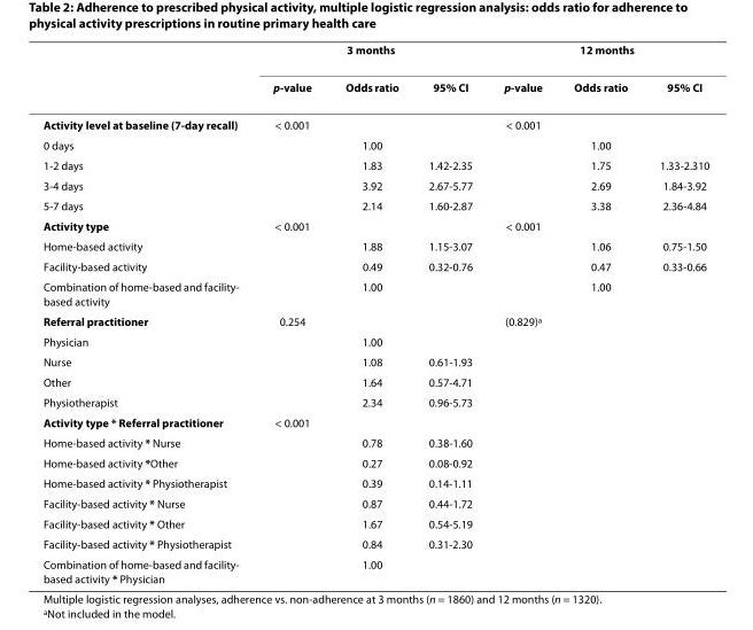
<table><thead><tr><td rowspan="2"></td><td colspan="3">3 months</td><td colspan="3">12 months</td></tr><tr><td>p-value</td><td>Odds ratio</td><td>95% CI</td><td>p-value</td><td>Odds ratio</td><td>95% CI</td></tr></thead><tbody><tr><td>Activity level at baseline (7-day recall)</td><td>&lt; 0.001</td><td></td><td></td><td>&lt; 0.001</td><td></td><td></td></tr><tr><td>0 days</td><td></td><td>1.00</td><td></td><td></td><td>1.00</td><td></td></tr><tr><td>1-2 days</td><td></td><td>1.83</td><td>1.42-2.35</td><td></td><td>1.75</td><td>1.33-2.310</td></tr><tr><td>3-4 days</td><td></td><td>3.92</td><td>2.67-5.77</td><td></td><td>2.69</td><td>1.84-3.92</td></tr><tr><td>5-7 days</td><td></td><td>2.14</td><td>1.60-2.87</td><td></td><td>3.38</td><td>2.36-4.84</td></tr><tr><td>Activity type</td><td>&lt; 0.001</td><td></td><td></td><td>&lt; 0.001</td><td></td><td></td></tr><tr><td>Home-based activity</td><td></td><td>1.88</td><td>1.15-3.07</td><td></td><td>1.06</td><td>0.75-1.50</td></tr><tr><td>Facility-based activity</td><td></td><td>0.49</td><td>0.32-0.76</td><td></td><td>0.47</td><td>0.33-0.66</td></tr><tr><td>Combination of home-based and facility- based activity</td><td></td><td>1.00</td><td></td><td></td><td>1.00</td><td></td></tr><tr><td>Referral practitioner</td><td>0.254</td><td></td><td></td><td>(0.829)<sup>a</sup></td><td></td><td></td></tr><tr><td>Physician</td><td></td><td>1.00</td><td></td><td></td><td></td><td></td></tr><tr><td>Nurse</td><td></td><td>1.08</td><td>0.61-1.93</td><td></td><td></td><td></td></tr><tr><td>Other</td><td></td><td>1.64</td><td>0.57-4.71</td><td></td><td></td><td></td></tr><tr><td>Physiotherapist</td><td></td><td>2.34</td><td>0.96-5.73</td><td></td><td></td><td></td></tr><tr><td>Activity type * Referral practitioner</td><td>&lt; 0.001</td><td></td><td></td><td></td><td></td><td></td></tr><tr><td>Home-based activity * Nurse</td><td></td><td>0.78</td><td>0.38-1.60</td><td></td><td></td><td></td></tr><tr><td>Home-based activity *Other</td><td></td><td>0.27</td><td>0.08-0.92</td><td></td><td></td><td></td></tr><tr><td>Home-based activity * Physiotherapist</td><td></td><td>0.39</td><td>0.14-1.11</td><td></td><td></td><td></td></tr><tr><td>Facility-based activity * Nurse</td><td></td><td>0.87</td><td>0.44-1.72</td><td></td><td></td><td></td></tr><tr><td>Facility-based activity * Other</td><td></td><td>1.67</td><td>0.54-5.19</td><td></td><td></td><td></td></tr><tr><td>Facility-based activity * Physiotherapist</td><td></td><td>0.84</td><td>0.31-2.30</td><td></td><td></td><td></td></tr><tr><td>Combination of home-based and facility- based activity * Physician</td><td></td><td>1.00</td><td></td><td></td><td></td><td></td></tr></tbody></table>